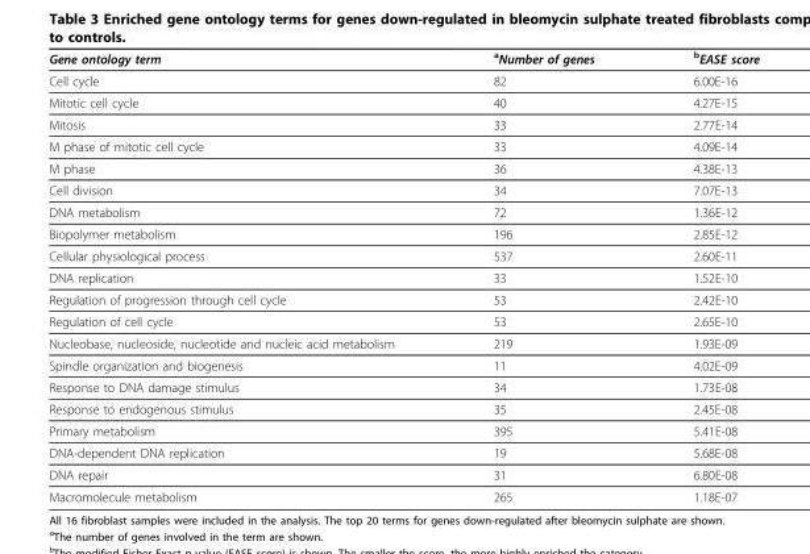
<table><thead><tr><td>Gene ontology term</td><td><sup>a</sup>Number of genes</td><td><sup>b</sup>EASE score</td></tr></thead><tbody><tr><td>Cell cycle</td><td>82</td><td>6.00E-16</td></tr><tr><td>Mitotic cell cycle</td><td>40</td><td>4.27E-15</td></tr><tr><td>Mitosis</td><td>33</td><td>2.77E-14</td></tr><tr><td>M phase of mitotic cell cycle</td><td>33</td><td>4.09E-14</td></tr><tr><td>M phase</td><td>36</td><td>4.38E-13</td></tr><tr><td>Cell division</td><td>34</td><td>7.07E-13</td></tr><tr><td>DNA metabolism</td><td>72</td><td>1.36E-12</td></tr><tr><td>Biopolymer metabolism</td><td>196</td><td>2.85E-12</td></tr><tr><td>Cellular physiological process</td><td>537</td><td>2.60E-11</td></tr><tr><td>DNA replication</td><td>33</td><td>1.52E-10</td></tr><tr><td>Regulation of progression through cell cycle</td><td>53</td><td>2.42E-10</td></tr><tr><td>Regulation of cell cycle</td><td>53</td><td>2.65E-10</td></tr><tr><td>Nucleobase, nucleoside, nucleotide and nucleic acid metabolism</td><td>219</td><td>1.93E-09</td></tr><tr><td>Spindle organization and biogenesis</td><td>11</td><td>4.02E-09</td></tr><tr><td>Response to DNA damage stimulus</td><td>34</td><td>1.73E-08</td></tr><tr><td>Response to endogenous stimulus</td><td>35</td><td>2.45E-08</td></tr><tr><td>Primary metabolism</td><td>395</td><td>5.41E-08</td></tr><tr><td>DNA-dependent DNA replication</td><td>19</td><td>5.68E-08</td></tr><tr><td>DNA repair</td><td>31</td><td>6.80E-08</td></tr><tr><td>Macromolecule metabolism</td><td>265</td><td>1.18E-07</td></tr></tbody></table>